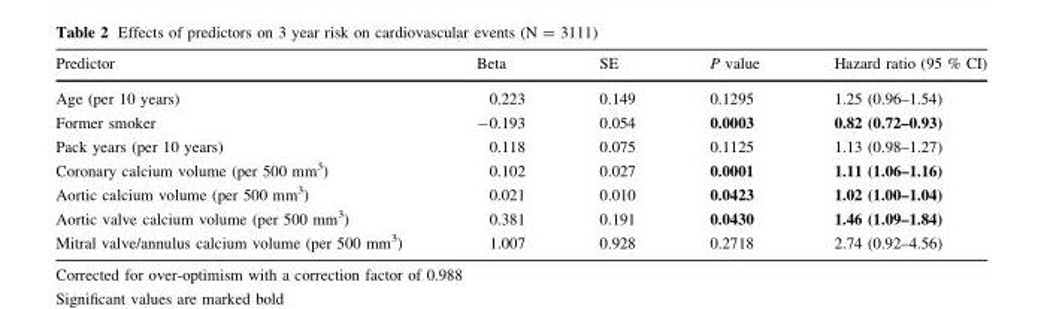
<table><thead><tr><td>Predictor</td><td>Beta</td><td>SE</td><td>P value</td><td>Hazard ratio (95 % CI)</td></tr></thead><tbody><tr><td>Age (per 10 years)</td><td>0.223</td><td>0.149</td><td>0.1295</td><td>1.25 (0.96–1.54)</td></tr><tr><td>Former smoker</td><td>-0.193</td><td>0.054</td><td>0.0003</td><td>0.82 (0.72–0.93)</td></tr><tr><td>Pack years (per 10 years)</td><td>0.118</td><td>0.075</td><td>0.1125</td><td>1.13 (0.98–1.27)</td></tr><tr><td>Coronary calcium volume (per 500 mm<sup>3</sup>)</td><td>0.102</td><td>0.027</td><td>0.0001</td><td>1.11 (1.06–1.16)</td></tr><tr><td>Aortic calcium volume (per 500 mm<sup>3</sup>)</td><td>0.021</td><td>0.010</td><td>0.0423</td><td>1.02 (1.00–1.04)</td></tr><tr><td>Aortic valve calcium volume (per 500 mm<sup>3</sup>)</td><td>0.381</td><td>0.191</td><td>0.0430</td><td>1.46 (1.09–1.84)</td></tr><tr><td>Mitral valve/annulus calcium volume (per 500 mm<sup>3</sup>)</td><td>1.007</td><td>0.928</td><td>0.2718</td><td>2.74 (0.92–4.56)</td></tr></tbody></table>